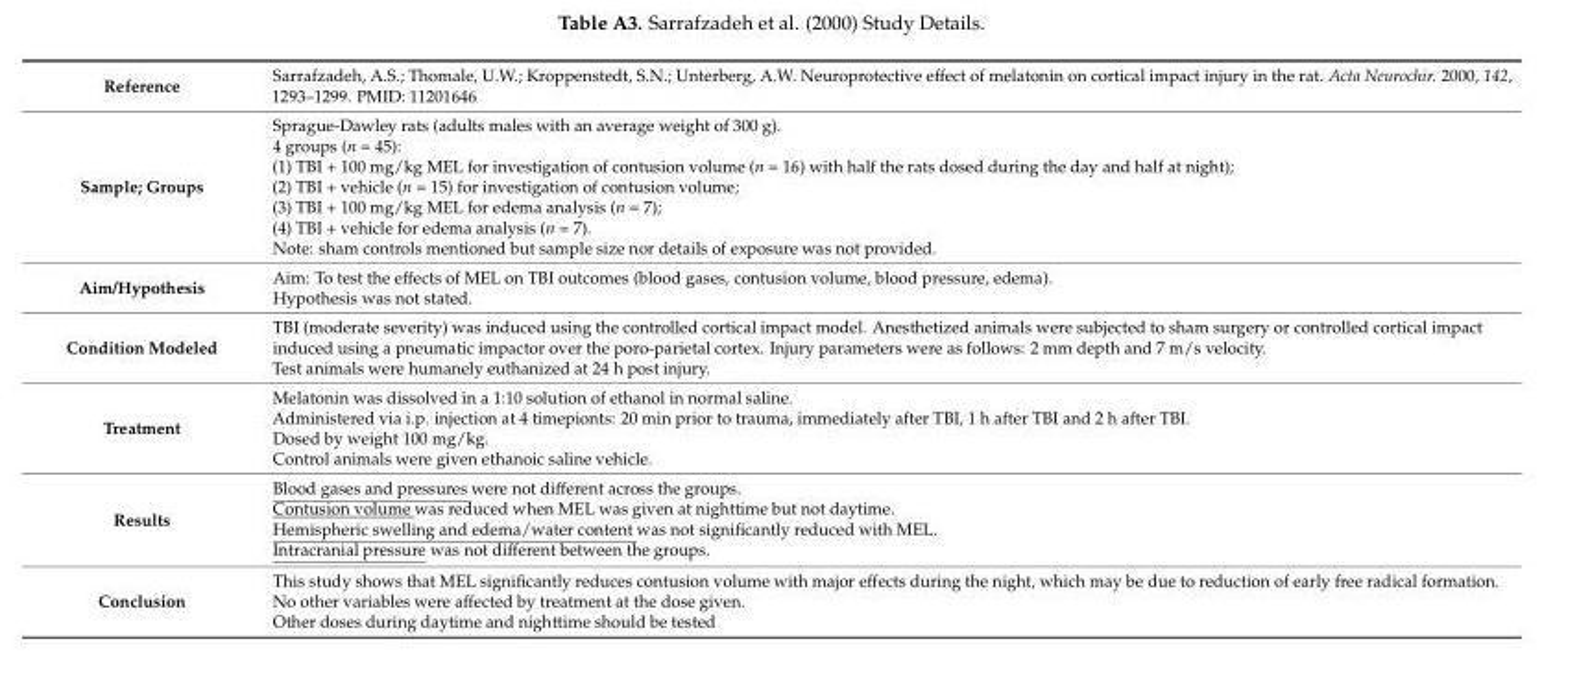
<table><tbody><tr><td>Reference</td><td>Sarrafzadeh, A.S.; Thomale, U.W.; Kroppenstedt, S.N.; Unterberg, A.W. Neuroprotective effect of melatonin on cortical impact injury in the rat. Acta Neurochir. 2000, 142, 1293–1299. PMID: 11201646</td></tr><tr><td>Sample; Groups</td><td>Sprague-Dawley rats (adults males with an average weight of 300 g). 4 groups (n = 45): (1) TBI + 100 mg/kg MEL for investigation of contusion volume (n = 16) with half the rats dosed during the day and half at night); (2) TBI + vehicle (n = 15) for investigation of contusion volume; (3) TBI + 100 mg/kg MEL for edema analysis (n = 7); (4) TBI + vehicle for edema analysis (n = 7). Note: sham controls mentioned but sample size nor details of exposure was not provided.</td></tr><tr><td>Aim/Hypothesis</td><td>Aim: To test the effects of MEL on TBI outcomes (blood gases, contusion volume, blood pressure, edema). Hypothesis was not stated.</td></tr><tr><td>Condition Modeled</td><td>TBI (moderate severity) was induced using the controlled cortical impact model. Anesthetized animals were subjected to sham surgery or controlled cortical impact induced using a pneumatic impactor over the poro-parietal cortex. Injury parameters were as follows: 2 mm depth and 7 m/s velocity. Test animals were humanely euthanized at 24 h post injury.</td></tr><tr><td>Treatment</td><td>Melatonin was dissolved in a 1:10 solution of ethanol in normal saline. Administered via i.p. injection at 4 timepionts: 20 min prior to trauma, immediately after TBI, 1 h after TBI and 2 h after TBI. Dosed by weight 100 mg/kg. Control animals were given ethanoic saline vehicle.</td></tr><tr><td>Results</td><td>Blood gases and pressures were not different across the groups. Contusion volume was reduced when MEL was given at nighttime but not daytime. Hemispheric swelling and edema/water content was not significantly reduced with MEL. Intracranial pressure was not different between the groups.</td></tr><tr><td>Conclusion</td><td>This study shows that MEL significantly reduces contusion volume with major effects during the night, which may be due to reduction of early free radical formation. No other variables were affected by treatment at the dose given. Other doses during daytime and nighttime should be tested</td></tr></tbody></table>